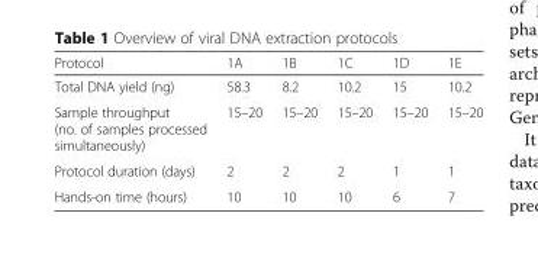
<table><thead><tr><td>Protocol</td><td>1A</td><td>1B</td><td>1C</td><td>1D</td><td>1E</td></tr></thead><tbody><tr><td>Total DNA yield (ng)</td><td>58.3</td><td>8.2</td><td>10.2</td><td>15</td><td>10.2</td></tr><tr><td>Sample throughput (no. of samples processed simultaneously)</td><td>15–20</td><td>15–20</td><td>15–20</td><td>15–20</td><td>15–20</td></tr><tr><td>Protocol duration (days)</td><td>2</td><td>2</td><td>2</td><td>1</td><td>1</td></tr><tr><td>Hands-on time (hours)</td><td>10</td><td>10</td><td>10</td><td>6</td><td>7</td></tr></tbody></table>